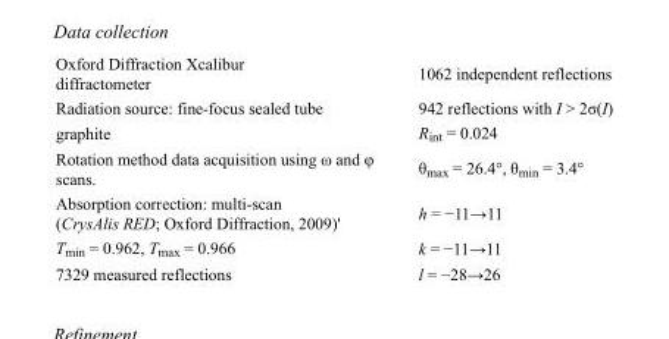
<table><tbody><tr><td>Oxford Diffraction Xcalibur diffractometer</td><td>1062 independent reflections</td></tr><tr><td>Radiation source: fine-focus sealed tube</td><td>942 reflections with I &gt; 2σ(I)</td></tr><tr><td>graphite</td><td>R<sub>int</sub> = 0.024</td></tr><tr><td>Rotation method data acquisition using ω and φ scans.</td><td>θ<sub>max</sub> = 26.4°, θ<sub>min</sub> = 3.4°</td></tr><tr><td>Absorption correction: multi-scan (CrysAlis RED; Oxford Diffraction, 2009)&#x27;</td><td>h = −11→11</td></tr><tr><td>T<sub>min</sub> = 0.962, T<sub>max</sub> = 0.966</td><td>k = −11→11</td></tr><tr><td>7329 measured reflections</td><td>l = −28→26</td></tr></tbody></table>